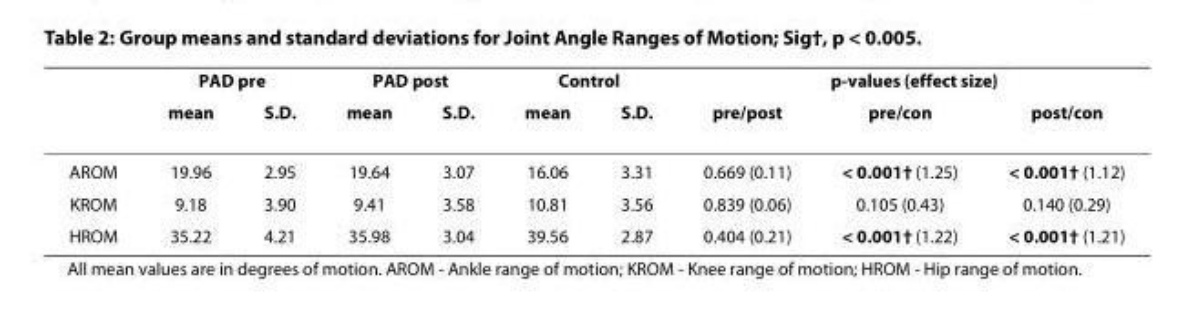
<table><thead><tr><td rowspan="2"></td><td colspan="2">PAD pre</td><td colspan="2">PAD post</td><td colspan="2">Control</td><td colspan="3">p-values (effect size)</td></tr><tr><td>mean</td><td>S.D.</td><td>mean</td><td>S.D.</td><td>mean</td><td>S.D.</td><td>pre/post</td><td>pre/con</td><td>post/con</td></tr></thead><tbody><tr><td>AROM</td><td>19.96</td><td>2.95</td><td>19.64</td><td>3.07</td><td>16.06</td><td>3.31</td><td>0.669 (0.11)</td><td>&lt; 0.001† (1.25)</td><td>&lt; 0.001† (1.12)</td></tr><tr><td>KROM</td><td>9.18</td><td>3.90</td><td>9.41</td><td>3.58</td><td>10.81</td><td>3.56</td><td>0.839 (0.06)</td><td>0.105 (0.43)</td><td>0.140 (0.29)</td></tr><tr><td>HROM</td><td>35.22</td><td>4.21</td><td>35.98</td><td>3.04</td><td>39.56</td><td>2.87</td><td>0.404 (0.21)</td><td>&lt; 0.001† (1.22)</td><td>&lt; 0.001† (1.21)</td></tr></tbody></table>